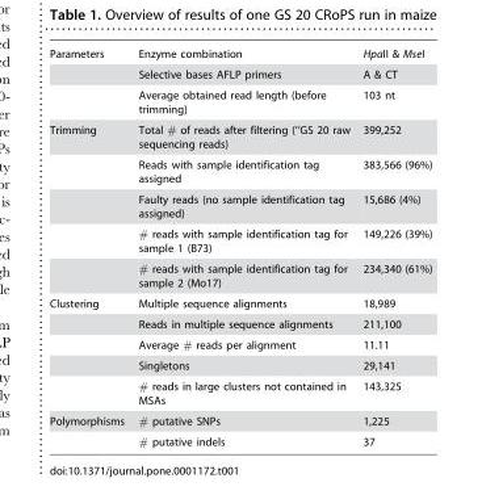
<table><tbody><tr><td rowspan="3">Parameters</td><td>Enzyme combination</td><td>HpaII &amp; MseI</td></tr><tr><td>Selective bases AFLP primers</td><td>A &amp; CT</td></tr><tr><td>Average obtained read length (before trimming)</td><td>103 nt</td></tr><tr><td rowspan="5">Trimming</td><td>Total # of reads after filtering (‘‘GS 20 raw sequencing reads)</td><td>399,252</td></tr><tr><td>Reads with sample identification tag assigned</td><td>383,566 (96%)</td></tr><tr><td>Faulty reads (no sample identification tag assigned)</td><td>15,686 (4%)</td></tr><tr><td># reads with sample identification tag for sample 1 (B73)</td><td>149,226 (39%)</td></tr><tr><td># reads with sample identification tag for sample 2 (Mo17)</td><td>234,340 (61%)</td></tr><tr><td rowspan="5">Clustering</td><td>Multiple sequence alignments</td><td>18,989</td></tr><tr><td>Reads in multiple sequence alignments</td><td>211,100</td></tr><tr><td>Average # reads per alignment</td><td>11.11</td></tr><tr><td>Singletons</td><td>29,141</td></tr><tr><td># reads in large clusters not contained in MSAs</td><td>143,325</td></tr><tr><td rowspan="2">Polymorphisms</td><td># putative SNPs</td><td>1,225</td></tr><tr><td># putative indels</td><td>37</td></tr></tbody></table>